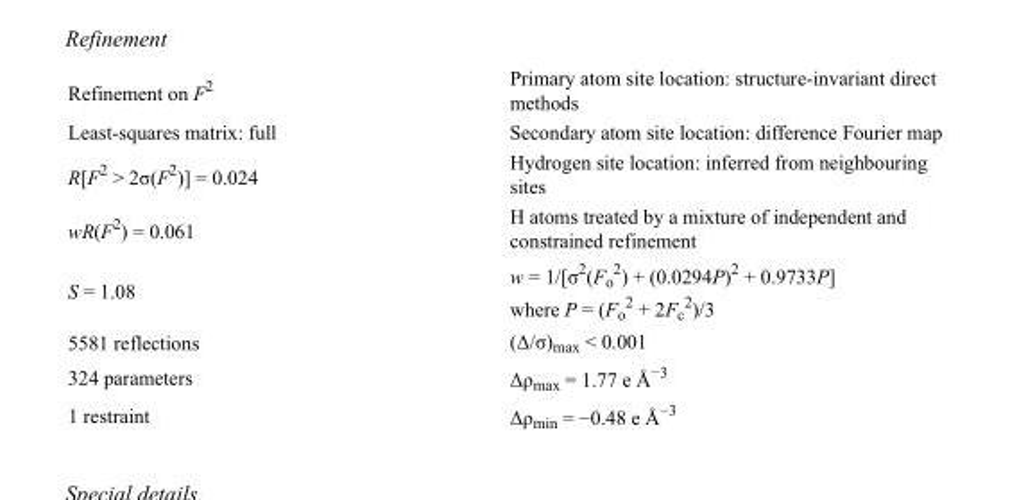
<table><tbody><tr><td>Refinement on F<sup>2</sup></td><td>Primary atom site location: structure-invariant direct methods</td></tr><tr><td>Least-squares matrix: full</td><td>Secondary atom site location: difference Fourier map</td></tr><tr><td>R[F<sup>2</sup> &gt; 2σ(F<sup>2</sup>)] = 0.024</td><td>Hydrogen site location: inferred from neighbouring sites</td></tr><tr><td>wR(F<sup>2</sup>) = 0.061</td><td>H atoms treated by a mixture of independent and constrained refinement</td></tr><tr><td>S = 1.08</td><td>w = 1/[σ<sup>2</sup>(F<sub>o</sub> <sup>2</sup>) + (0.0294P)<sup>2</sup> + 0.9733P] where P = (F<sub>o</sub> <sup>2</sup> + 2F<sub>c</sub> <sup>2</sup>)/3</td></tr><tr><td>5581 reflections</td><td>(Δ/σ)<sub>max</sub> &lt; 0.001</td></tr><tr><td>324 parameters</td><td>Δρ<sub>max</sub> = 1.77 e Å<sup>−3</sup></td></tr><tr><td>1 restraint</td><td>Δρ<sub>min</sub> = −0.48 e Å<sup>−3</sup></td></tr></tbody></table>